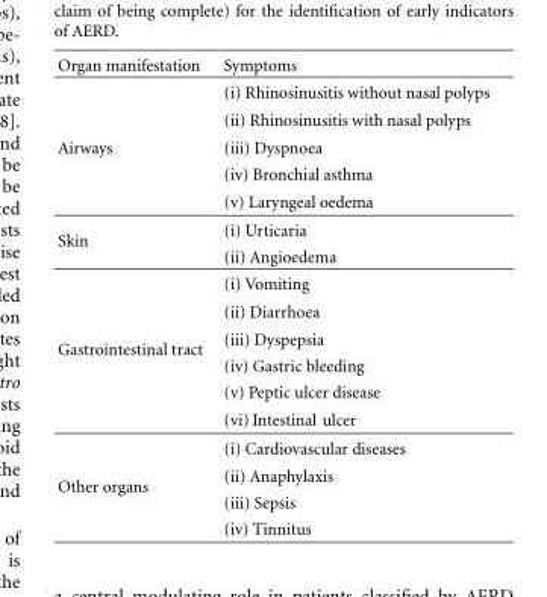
<table><thead><tr><td>Organ manifestation</td><td>Symptoms</td></tr></thead><tbody><tr><td></td><td>(i) Rhinosinusitis without nasal polyps</td></tr><tr><td></td><td>(ii) Rhinosinusitis with nasal polyps</td></tr><tr><td rowspan="3">Airways</td><td>(iii) Dyspnoea</td></tr><tr><td>(iv) Bronchial asthma</td></tr><tr><td>(v) Laryngeal oedema</td></tr><tr><td rowspan="4">Skin</td><td>(i) Urticaria</td></tr><tr><td>(ii) Angioedema</td></tr><tr><td>(i) Vomiting</td></tr><tr><td>(ii) Diarrhoea</td></tr><tr><td rowspan="5">Gastrointestinal tract</td><td>(iii) Dyspepsia</td></tr><tr><td>(iv) Gastric bleeding</td></tr><tr><td>(v) Peptic ulcer disease</td></tr><tr><td>(vi) Intestinal ulcer</td></tr><tr><td>(i) Cardiovascular diseases</td></tr><tr><td rowspan="3">Other organs</td><td>(ii) Anaphylaxis</td></tr><tr><td>(iii) Sepsis</td></tr><tr><td>(iv) Tinnitus</td></tr></tbody></table>